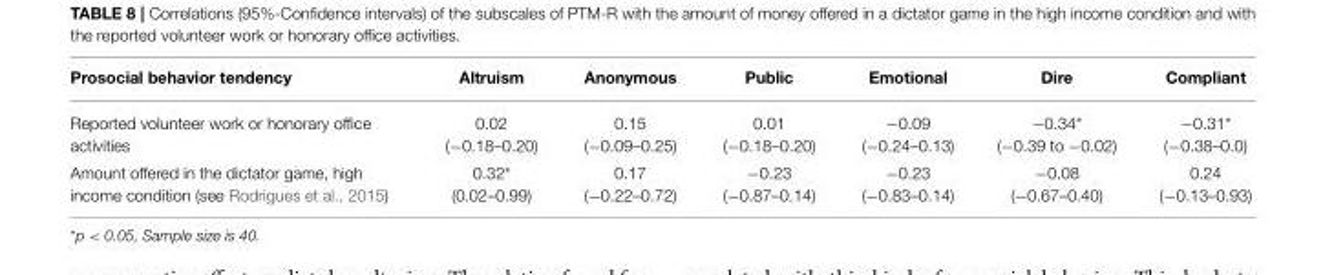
<table><thead><tr><td>Prosocial behavior tendency</td><td>Altruism</td><td>Anonymous</td><td>Public</td><td>Emotional</td><td>Dire</td><td>Compliant</td></tr></thead><tbody><tr><td>Reported volunteer work or honorary office activities</td><td>0.02 (−0.18–0.20)</td><td>0.15 (−0.09–0.25)</td><td>0.01 (−0.18–0.20)</td><td>−0.09 (−0.24–0.13)</td><td>−0.34* (−0.39 to −0.02)</td><td>−0.31* (−0.38–0.0)</td></tr><tr><td>Amount offered in the dictator game, high income condition (see Rodrigues et al., 2015)</td><td>0.32* (0.02–0.99)</td><td>0.17 (−0.22–0.72)</td><td>−0.23 (−0.87–0.14)</td><td>−0.23 (−0.83–0.14)</td><td>−0.08 (−0.67–0.40)</td><td>0.24 (−0.13–0.93)</td></tr></tbody></table>